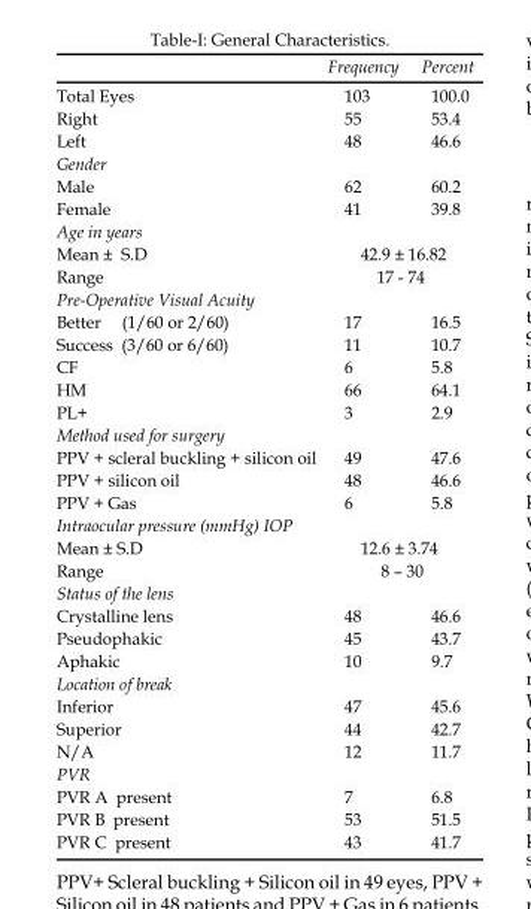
<table><thead><tr><td></td><td>Frequency</td><td>Percent</td></tr></thead><tbody><tr><td>Total Eyes</td><td>103</td><td>100.0</td></tr><tr><td>Right</td><td>55</td><td>53.4</td></tr><tr><td>Left</td><td>48</td><td>46.6</td></tr><tr><td colspan="3">Gender</td></tr><tr><td>Male</td><td>62</td><td>60.2</td></tr><tr><td>Female</td><td>41</td><td>39.8</td></tr><tr><td colspan="3">Age in years</td></tr><tr><td>Mean ± S.D</td><td colspan="2">42.9 ± 16.82</td></tr><tr><td>Range</td><td colspan="2">17 - 74</td></tr><tr><td colspan="3">Pre-Operative Visual Acuity</td></tr><tr><td>Better (1/60 or 2/60)</td><td>17</td><td>16.5</td></tr><tr><td>Success (3/60 or 6/60)</td><td>11</td><td>10.7</td></tr><tr><td>CF</td><td>6</td><td>5.8</td></tr><tr><td>HM</td><td>66</td><td>64.1</td></tr><tr><td>PL+</td><td>3</td><td>2.9</td></tr><tr><td colspan="3">Method used for surgery</td></tr><tr><td>PPV + scleral buckling + silicon oil</td><td>49</td><td>47.6</td></tr><tr><td>PPV + silicon oil</td><td>48</td><td>46.6</td></tr><tr><td>PPV + Gas</td><td>6</td><td>5.8</td></tr><tr><td colspan="3">Intraocular pressure (mmHg) IOP</td></tr><tr><td>Mean ± S.D</td><td colspan="2">12.6 ± 3.74</td></tr><tr><td>Range</td><td colspan="2">8 – 30</td></tr><tr><td colspan="3">Status of the lens</td></tr><tr><td>Crystalline lens</td><td>48</td><td>46.6</td></tr><tr><td>Pseudophakic</td><td>45</td><td>43.7</td></tr><tr><td>Aphakic</td><td>10</td><td>9.7</td></tr><tr><td colspan="3">Location of break</td></tr><tr><td>Inferior</td><td>47</td><td>45.6</td></tr><tr><td>Superior</td><td>44</td><td>42.7</td></tr><tr><td>N/A</td><td>12</td><td>11.7</td></tr><tr><td colspan="3">PVR</td></tr><tr><td>PVR A present</td><td>7</td><td>6.8</td></tr><tr><td>PVR B present</td><td>53</td><td>51.5</td></tr><tr><td>PVR C present</td><td>43</td><td>41.7</td></tr></tbody></table>